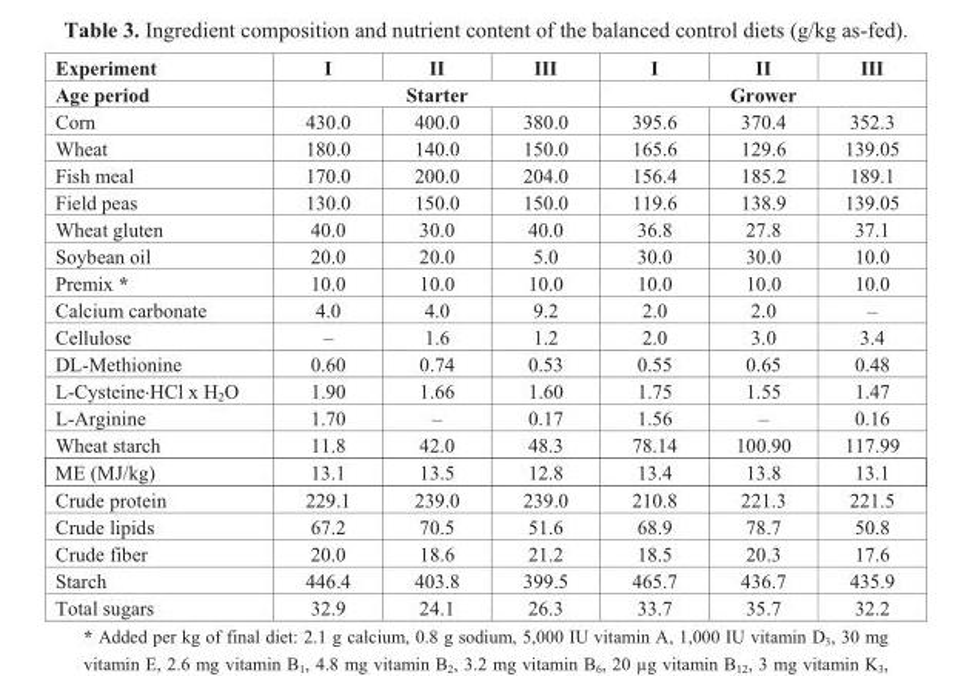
<table><thead><tr><td rowspan="2">Experiment Age period</td><td>I</td><td>II</td><td>III</td><td>I</td><td>II</td><td>III</td></tr><tr><td colspan="3">Starter</td><td colspan="3">Grower</td></tr></thead><tbody><tr><td>Corn</td><td>430.0</td><td>400.0</td><td>380.0</td><td>395.6</td><td>370.4</td><td>352.3</td></tr><tr><td>Wheat</td><td>180.0</td><td>140.0</td><td>150.0</td><td>165.6</td><td>129.6</td><td>139.05</td></tr><tr><td>Fish meal</td><td>170.0</td><td>200.0</td><td>204.0</td><td>156.4</td><td>185.2</td><td>189.1</td></tr><tr><td>Field peas</td><td>130.0</td><td>150.0</td><td>150.0</td><td>119.6</td><td>138.9</td><td>139.05</td></tr><tr><td>Wheat gluten</td><td>40.0</td><td>30.0</td><td>40.0</td><td>36.8</td><td>27.8</td><td>37.1</td></tr><tr><td>Soybean oil</td><td>20.0</td><td>20.0</td><td>5.0</td><td>30.0</td><td>30.0</td><td>10.0</td></tr><tr><td>Premix *</td><td>10.0</td><td>10.0</td><td>10.0</td><td>10.0</td><td>10.0</td><td>10.0</td></tr><tr><td>Calcium carbonate</td><td>4.0</td><td>4.0</td><td>9.2</td><td>2.0</td><td>2.0</td><td>–</td></tr><tr><td>Cellulose</td><td>–</td><td>1.6</td><td>1.2</td><td>2.0</td><td>3.0</td><td>3.4</td></tr><tr><td>DL-Methionine</td><td>0.60</td><td>0.74</td><td>0.53</td><td>0.55</td><td>0.65</td><td>0.48</td></tr><tr><td>L-Cysteine·HCl x H<sub>2</sub>O</td><td>1.90</td><td>1.66</td><td>1.60</td><td>1.75</td><td>1.55</td><td>1.47</td></tr><tr><td>L-Arginine</td><td>1.70</td><td>–</td><td>0.17</td><td>1.56</td><td>–</td><td>0.16</td></tr><tr><td>Wheat starch</td><td>11.8</td><td>42.0</td><td>48.3</td><td>78.14</td><td>100.90</td><td>117.99</td></tr><tr><td>ME (MJ/kg)</td><td>13.1</td><td>13.5</td><td>12.8</td><td>13.4</td><td>13.8</td><td>13.1</td></tr><tr><td>Crude protein</td><td>229.1</td><td>239.0</td><td>239.0</td><td>210.8</td><td>221.3</td><td>221.5</td></tr><tr><td>Crude lipids</td><td>67.2</td><td>70.5</td><td>51.6</td><td>68.9</td><td>78.7</td><td>50.8</td></tr><tr><td>Crude fiber</td><td>20.0</td><td>18.6</td><td>21.2</td><td>18.5</td><td>20.3</td><td>17.6</td></tr><tr><td>Starch</td><td>446.4</td><td>403.8</td><td>399.5</td><td>465.7</td><td>436.7</td><td>435.9</td></tr><tr><td>Total sugars</td><td>32.9</td><td>24.1</td><td>26.3</td><td>33.7</td><td>35.7</td><td>32.2</td></tr></tbody></table>